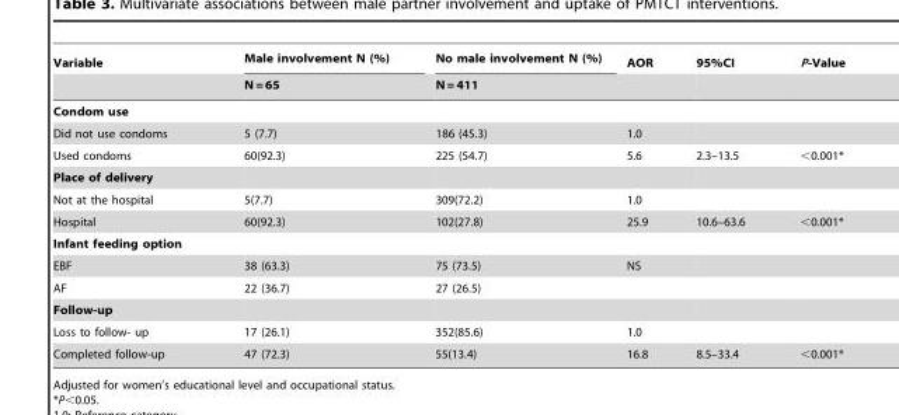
<table><thead><tr><td rowspan="2">Variable</td><td rowspan="2">Male involvement N (%) N = 65</td><td rowspan="2">No male involvement N (%) N = 411</td><td rowspan="2">AOR</td><td rowspan="2">95%CI</td><td rowspan="2">P-Value</td></tr><tr></tr></thead><tbody><tr><td colspan="6">Condom use</td></tr><tr><td>Did not use condoms</td><td>5 (7.7)</td><td>186 (45.3)</td><td>1.0</td><td></td><td></td></tr><tr><td>Used condoms</td><td>60(92.3)</td><td>225 (54.7)</td><td>5.6</td><td>2.3–13.5</td><td>&lt;0.001*</td></tr><tr><td colspan="6">Place of delivery</td></tr><tr><td>Not at the hospital</td><td>5(7.7)</td><td>309(72.2)</td><td>1.0</td><td></td><td></td></tr><tr><td>Hospital</td><td>60(92.3)</td><td>102(27.8)</td><td>25.9</td><td>10.6–63.6</td><td>&lt;0.001*</td></tr><tr><td colspan="6">Infant feeding option</td></tr><tr><td>EBF</td><td>38 (63.3)</td><td>75 (73.5)</td><td>NS</td><td></td><td></td></tr><tr><td>AF</td><td>22 (36.7)</td><td>27 (26.5)</td><td></td><td></td><td></td></tr><tr><td colspan="6">Follow-up</td></tr><tr><td>Loss to follow- up</td><td>17 (26.1)</td><td>352(85.6)</td><td>1.0</td><td></td><td></td></tr><tr><td>Completed follow-up</td><td>47 (72.3)</td><td>55(13.4)</td><td>16.8</td><td>8.5–33.4</td><td>&lt;0.001*</td></tr></tbody></table>